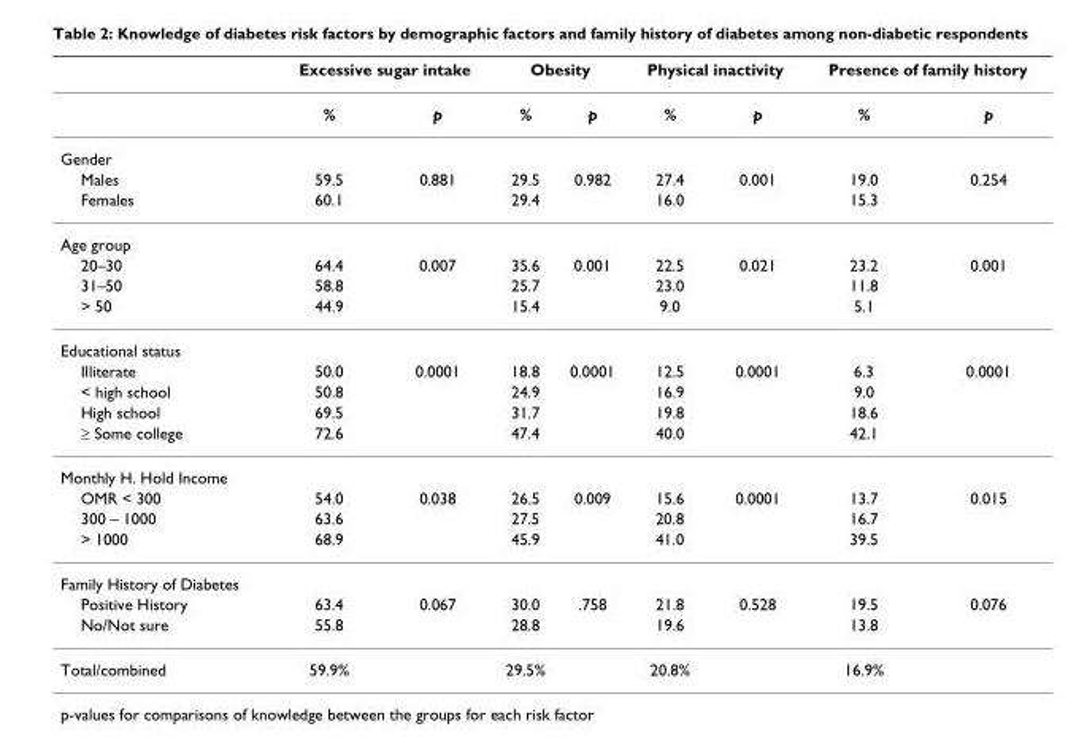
<table><thead><tr><td rowspan="2"></td><td colspan="2">Excessive sugar intake</td><td colspan="2">Obesity</td><td colspan="2">Physical inactivity</td><td colspan="2">Presence of family history</td></tr><tr><td>%</td><td>p</td><td>%</td><td>p</td><td>%</td><td>p</td><td>%</td><td>p</td></tr></thead><tbody><tr><td colspan="9">Gender</td></tr><tr><td>Males</td><td>59.5</td><td>0.881</td><td>29.5</td><td>0.982</td><td>27.4</td><td>0.001</td><td>19.0</td><td>0.254</td></tr><tr><td>Females</td><td>60.1</td><td></td><td>29.4</td><td></td><td>16.0</td><td></td><td>15.3</td><td></td></tr><tr><td colspan="9">Age group</td></tr><tr><td>20–30</td><td>64.4</td><td>0.007</td><td>35.6</td><td>0.001</td><td>22.5</td><td>0.021</td><td>23.2</td><td>0.001</td></tr><tr><td>31–50</td><td>58.8</td><td></td><td>25.7</td><td></td><td>23.0</td><td></td><td>11.8</td><td></td></tr><tr><td>&gt; 50</td><td>44.9</td><td></td><td>15.4</td><td></td><td>9.0</td><td></td><td>5.1</td><td></td></tr><tr><td colspan="9">Educational status</td></tr><tr><td>Illiterate</td><td>50.0</td><td>0.0001</td><td>18.8</td><td>0.0001</td><td>12.5</td><td>0.0001</td><td>6.3</td><td>0.0001</td></tr><tr><td>&lt; high school</td><td>50.8</td><td></td><td>24.9</td><td></td><td>16.9</td><td></td><td>9.0</td><td></td></tr><tr><td>High school</td><td>69.5</td><td></td><td>31.7</td><td></td><td>19.8</td><td></td><td>18.6</td><td></td></tr><tr><td>≥ Some college</td><td>72.6</td><td></td><td>47.4</td><td></td><td>40.0</td><td></td><td>42.1</td><td></td></tr><tr><td colspan="9">Monthly H. Hold Income</td></tr><tr><td>OMR &lt; 300</td><td>54.0</td><td>0.038</td><td>26.5</td><td>0.009</td><td>15.6</td><td>0.0001</td><td>13.7</td><td>0.015</td></tr><tr><td>300 – 1000</td><td>63.6</td><td></td><td>27.5</td><td></td><td>20.8</td><td></td><td>16.7</td><td></td></tr><tr><td>&gt; 1000</td><td>68.9</td><td></td><td>45.9</td><td></td><td>41.0</td><td></td><td>39.5</td><td></td></tr><tr><td colspan="9">Family History of Diabetes</td></tr><tr><td>Positive History</td><td>63.4</td><td>0.067</td><td>30.0</td><td>.758</td><td>21.8</td><td>0.528</td><td>19.5</td><td>0.076</td></tr><tr><td>No/Not sure</td><td>55.8</td><td></td><td>28.8</td><td></td><td>19.6</td><td></td><td>13.8</td><td></td></tr><tr><td>Total/combined</td><td>59.9%</td><td></td><td>29.5%</td><td></td><td>20.8%</td><td></td><td>16.9%</td><td></td></tr></tbody></table>